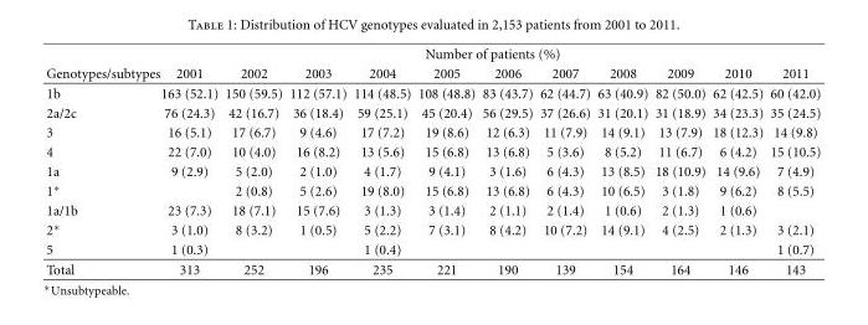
<table><thead><tr><td rowspan="2">Genotypes/subtypes</td><td colspan="11">Number of patients (%)</td></tr><tr><td>2001</td><td>2002</td><td>2003</td><td>2004</td><td>2005</td><td>2006</td><td>2007</td><td>2008</td><td>2009</td><td>2010</td><td>2011</td></tr></thead><tbody><tr><td>1b</td><td>163 (52.1)</td><td>150 (59.5)</td><td>112 (57.1)</td><td>114 (48.5)</td><td>108 (48.8)</td><td>83 (43.7)</td><td>62 (44.7)</td><td>63 (40.9)</td><td>82 (50.0)</td><td>62 (42.5)</td><td>60 (42.0)</td></tr><tr><td>2a/2c</td><td>76 (24.3)</td><td>42 (16.7)</td><td>36 (18.4)</td><td>59 (25.1)</td><td>45 (20.4)</td><td>56 (29.5)</td><td>37 (26.6)</td><td>31 (20.1)</td><td>31 (18.9)</td><td>34 (23.3)</td><td>35 (24.5)</td></tr><tr><td>3</td><td>16 (5.1)</td><td>17 (6.7)</td><td>9 (4.6)</td><td>17 (7.2)</td><td>19 (8.6)</td><td>12 (6.3)</td><td>11 (7.9)</td><td>14 (9.1)</td><td>13 (7.9)</td><td>18 (12.3)</td><td>14 (9.8)</td></tr><tr><td>4</td><td>22 (7.0)</td><td>10 (4.0)</td><td>16 (8.2)</td><td>13 (5.6)</td><td>15 (6.8)</td><td>13 (6.8)</td><td>5 (3.6)</td><td>8 (5.2)</td><td>11 (6.7)</td><td>6 (4.2)</td><td>15 (10.5)</td></tr><tr><td>1a</td><td>9 (2.9)</td><td>5 (2.0)</td><td>2 (1.0)</td><td>4 (1.7)</td><td>9 (4.1)</td><td>3 (1.6)</td><td>6 (4.3)</td><td>13 (8.5)</td><td>18 (10.9)</td><td>14 (9.6)</td><td>7 (4.9)</td></tr><tr><td>1∗</td><td></td><td>2 (0.8)</td><td>5 (2.6)</td><td>19 (8.0)</td><td>15 (6.8)</td><td>13 (6.8)</td><td>6 (4.3)</td><td>10 (6.5)</td><td>3 (1.8)</td><td>9 (6.2)</td><td>8 (5.5)</td></tr><tr><td>1a/1b</td><td>23 (7.3)</td><td>18 (7.1)</td><td>15 (7.6)</td><td>3 (1.3)</td><td>3 (1.4)</td><td>2 (1.1)</td><td>2 (1.4)</td><td>1 (0.6)</td><td>2 (1.3)</td><td>1 (0.6)</td><td></td></tr><tr><td>2∗</td><td>3 (1.0)</td><td>8 (3.2)</td><td>1 (0.5)</td><td>5 (2.2)</td><td>7 (3.1)</td><td>8 (4.2)</td><td>10 (7.2)</td><td>14 (9.1)</td><td>4 (2.5)</td><td>2 (1.3)</td><td>3 (2.1)</td></tr><tr><td>5</td><td>1 (0.3)</td><td></td><td></td><td>1 (0.4)</td><td></td><td></td><td></td><td></td><td></td><td></td><td>1 (0.7)</td></tr><tr><td>Total</td><td>313</td><td>252</td><td>196</td><td>235</td><td>221</td><td>190</td><td>139</td><td>154</td><td>164</td><td>146</td><td>143</td></tr></tbody></table>